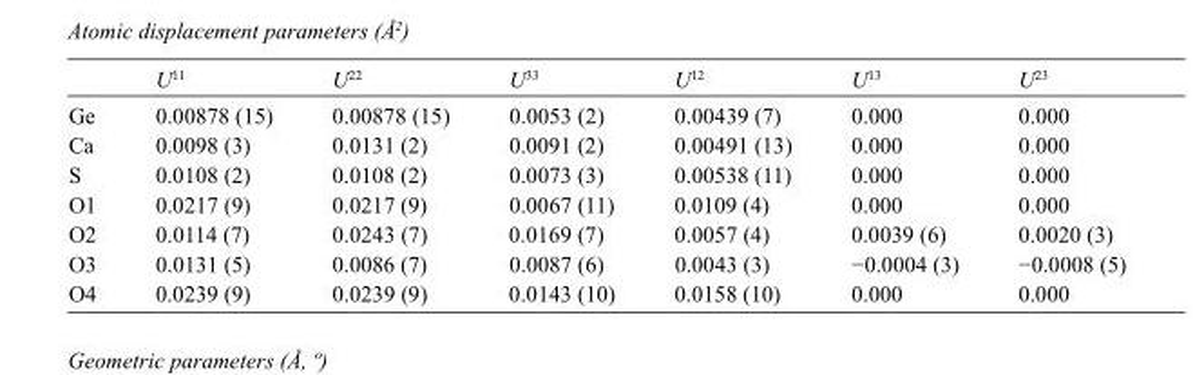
<table><thead><tr><td></td><td>U<sup>11</sup></td><td>U<sup>22</sup></td><td>U<sup>33</sup></td><td>U<sup>12</sup></td><td>U<sup>13</sup></td><td>U<sup>23</sup></td></tr></thead><tbody><tr><td>Ge</td><td>0.00878 (15)</td><td>0.00878 (15)</td><td>0.0053 (2)</td><td>0.00439 (7)</td><td>0.000</td><td>0.000</td></tr><tr><td>Ca</td><td>0.0098 (3)</td><td>0.0131 (2)</td><td>0.0091 (2)</td><td>0.00491 (13)</td><td>0.000</td><td>0.000</td></tr><tr><td>S</td><td>0.0108 (2)</td><td>0.0108 (2)</td><td>0.0073 (3)</td><td>0.00538 (11)</td><td>0.000</td><td>0.000</td></tr><tr><td>O1</td><td>0.0217 (9)</td><td>0.0217 (9)</td><td>0.0067 (11)</td><td>0.0109 (4)</td><td>0.000</td><td>0.000</td></tr><tr><td>O2</td><td>0.0114 (7)</td><td>0.0243 (7)</td><td>0.0169 (7)</td><td>0.0057 (4)</td><td>0.0039 (6)</td><td>0.0020 (3)</td></tr><tr><td>O3</td><td>0.0131 (5)</td><td>0.0086 (7)</td><td>0.0087 (6)</td><td>0.0043 (3)</td><td>−0.0004 (3)</td><td>−0.0008 (5)</td></tr><tr><td>O4</td><td>0.0239 (9)</td><td>0.0239 (9)</td><td>0.0143 (10)</td><td>0.0158 (10)</td><td>0.000</td><td>0.000</td></tr></tbody></table>